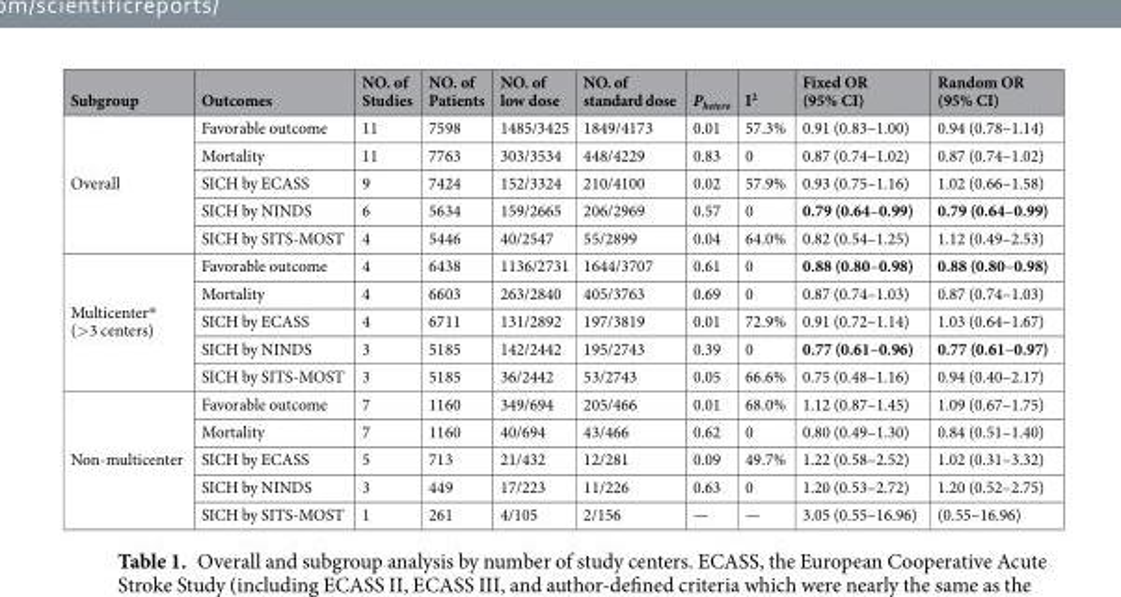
<table><thead><tr><td>Subgroup</td><td>Outcomes</td><td>NO. of Studies</td><td>NO. of Patients</td><td>NO. of low dose</td><td>NO. of standard dose</td><td>P<sub>hetero</sub></td><td>I<sup>2</sup></td><td>Fixed OR (95% CI)</td><td>Random OR (95% CI)</td></tr></thead><tbody><tr><td rowspan="5">Overall</td><td>Favorable outcome</td><td>11</td><td>7598</td><td>1485/3425</td><td>1849/4173</td><td>0.01</td><td>57.3%</td><td>0.91 (0.83–1.00)</td><td>0.94 (0.78–1.14)</td></tr><tr><td>Mortality</td><td>11</td><td>7763</td><td>303/3534</td><td>448/4229</td><td>0.83</td><td>0</td><td>0.87 (0.74–1.02)</td><td>0.87 (0.74–1.02)</td></tr><tr><td>SICH by ECASS</td><td>9</td><td>7424</td><td>152/3324</td><td>210/4100</td><td>0.02</td><td>57.9%</td><td>0.93 (0.75–1.16)</td><td>1.02 (0.66–1.58)</td></tr><tr><td>SICH by NINDS</td><td>6</td><td>5634</td><td>159/2665</td><td>206/2969</td><td>0.57</td><td>0</td><td>0.79 (0.64–0.99)</td><td>0.79 (0.64–0.99)</td></tr><tr><td>SICH by SITS-MOST</td><td>4</td><td>5446</td><td>40/2547</td><td>55/2899</td><td>0.04</td><td>64.0%</td><td>0.82 (0.54–1.25)</td><td>1.12 (0.49–2.53)</td></tr><tr><td rowspan="5">Multicenter* (&gt;3 centers)</td><td>Favorable outcome</td><td>4</td><td>6438</td><td>1136/2731</td><td>1644/3707</td><td>0.61</td><td>0</td><td>0.88 (0.80–0.98)</td><td>0.88 (0.80–0.98)</td></tr><tr><td>Mortality</td><td>4</td><td>6603</td><td>263/2840</td><td>405/3763</td><td>0.69</td><td>0</td><td>0.87 (0.74–1.03)</td><td>0.87 (0.74–1.03)</td></tr><tr><td>SICH by ECASS</td><td>4</td><td>6711</td><td>131/2892</td><td>197/3819</td><td>0.01</td><td>72.9%</td><td>0.91 (0.72–1.14)</td><td>1.03 (0.64–1.67)</td></tr><tr><td>SICH by NINDS</td><td>3</td><td>5185</td><td>142/2442</td><td>195/2743</td><td>0.39</td><td>0</td><td>0.77 (0.61–0.96)</td><td>0.77 (0.61–0.97)</td></tr><tr><td>SICH by SITS-MOST</td><td>3</td><td>5185</td><td>36/2442</td><td>53/2743</td><td>0.05</td><td>66.6%</td><td>0.75 (0.48–1.16)</td><td>0.94 (0.40–2.17)</td></tr><tr><td rowspan="5">Non-multicenter</td><td>Favorable outcome</td><td>7</td><td>1160</td><td>349/694</td><td>205/466</td><td>0.01</td><td>68.0%</td><td>1.12 (0.87–1.45)</td><td>1.09 (0.67–1.75)</td></tr><tr><td>Mortality</td><td>7</td><td>1160</td><td>40/694</td><td>43/466</td><td>0.62</td><td>0</td><td>0.80 (0.49–1.30)</td><td>0.84 (0.51–1.40)</td></tr><tr><td>SICH by ECASS</td><td>5</td><td>713</td><td>21/432</td><td>12/281</td><td>0.09</td><td>49.7%</td><td>1.22 (0.58–2.52)</td><td>1.02 (0.31–3.32)</td></tr><tr><td>SICH by NINDS</td><td>3</td><td>449</td><td>17/223</td><td>11/226</td><td>0.63</td><td>0</td><td>1.20 (0.53–2.72)</td><td>1.20 (0.52–2.75)</td></tr><tr><td>SICH by SITS-MOST</td><td>1</td><td>261</td><td>4/105</td><td>2/156</td><td>—</td><td>—</td><td>3.05 (0.55–16.96)</td><td>(0.55–16.96)</td></tr></tbody></table>